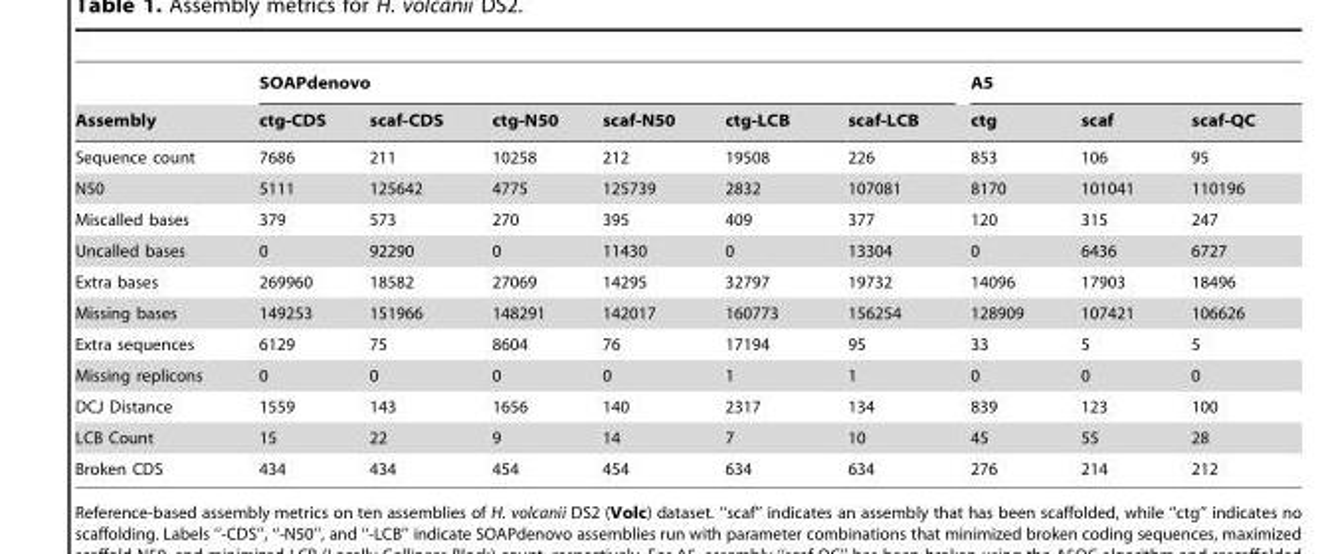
<table><thead><tr><td rowspan="2">Assembly</td><td colspan="6">SOAPdenovo</td><td colspan="3">A5</td></tr><tr><td>ctg-CDS</td><td>scaf-CDS</td><td>ctg-N50</td><td>scaf-N50</td><td>ctg-LCB</td><td>scaf-LCB</td><td>ctg</td><td>scaf</td><td>scaf-QC</td></tr></thead><tbody><tr><td>Sequence count</td><td>7686</td><td>211</td><td>10258</td><td>212</td><td>19508</td><td>226</td><td>853</td><td>106</td><td>95</td></tr><tr><td>N50</td><td>5111</td><td>125642</td><td>4775</td><td>125739</td><td>2832</td><td>107081</td><td>8170</td><td>101041</td><td>110196</td></tr><tr><td>Miscalled bases</td><td>379</td><td>573</td><td>270</td><td>395</td><td>409</td><td>377</td><td>120</td><td>315</td><td>247</td></tr><tr><td>Uncalled bases</td><td>0</td><td>92290</td><td>0</td><td>11430</td><td>0</td><td>13304</td><td>0</td><td>6436</td><td>6727</td></tr><tr><td>Extra bases</td><td>269960</td><td>18582</td><td>27069</td><td>14295</td><td>32797</td><td>19732</td><td>14096</td><td>17903</td><td>18496</td></tr><tr><td>Missing bases</td><td>149253</td><td>151966</td><td>148291</td><td>142017</td><td>160773</td><td>156254</td><td>128909</td><td>107421</td><td>106626</td></tr><tr><td>Extra sequences</td><td>6129</td><td>75</td><td>8604</td><td>76</td><td>17194</td><td>95</td><td>33</td><td>5</td><td>5</td></tr><tr><td>Missing replicons</td><td>0</td><td>0</td><td>0</td><td>0</td><td>1</td><td>1</td><td>0</td><td>0</td><td>0</td></tr><tr><td>DCJ Distance</td><td>1559</td><td>143</td><td>1656</td><td>140</td><td>2317</td><td>134</td><td>839</td><td>123</td><td>100</td></tr><tr><td>LCB Count</td><td>15</td><td>22</td><td>9</td><td>14</td><td>7</td><td>10</td><td>45</td><td>55</td><td>28</td></tr><tr><td>Broken CDS</td><td>434</td><td>434</td><td>454</td><td>454</td><td>634</td><td>634</td><td>276</td><td>214</td><td>212</td></tr></tbody></table>